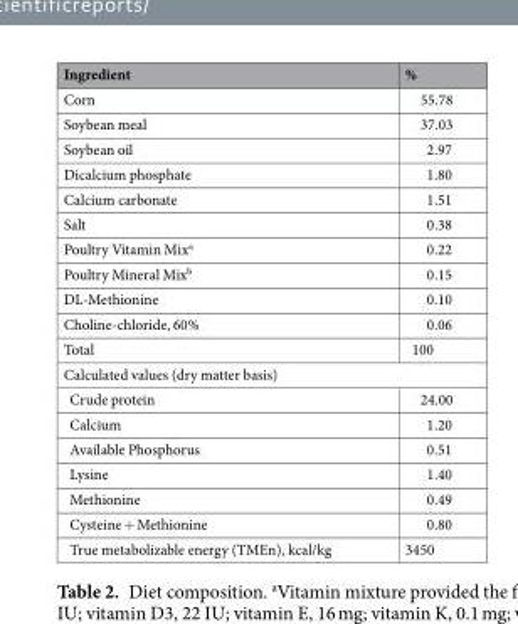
<table><thead><tr><td>Ingredient</td><td>%</td></tr></thead><tbody><tr><td>Corn</td><td>55.78</td></tr><tr><td>Soybean meal</td><td>37.03</td></tr><tr><td>Soybean oil</td><td>2.97</td></tr><tr><td>Dicalcium phosphate</td><td>1.80</td></tr><tr><td>Calcium carbonate</td><td>1.51</td></tr><tr><td>Salt</td><td>0.38</td></tr><tr><td>Poultry Vitamin Mixa</td><td>0.22</td></tr><tr><td>Poultry Mineral Mixb</td><td>0.15</td></tr><tr><td>DL-Methionine</td><td>0.10</td></tr><tr><td>Choline-chloride, 60%</td><td>0.06</td></tr><tr><td>Total</td><td>100</td></tr><tr><td colspan="2">Calculated values (dry matter basis)</td></tr><tr><td>Crude protein</td><td>24.00</td></tr><tr><td>Calcium</td><td>1.20</td></tr><tr><td>Available Phosphorus</td><td>0.51</td></tr><tr><td>Lysine</td><td>1.40</td></tr><tr><td>Methionine</td><td>0.49</td></tr><tr><td>Cysteine + Methionine</td><td>0.80</td></tr><tr><td>True metabolizable energy (TMEn), kcal/kg</td><td>3450</td></tr></tbody></table>